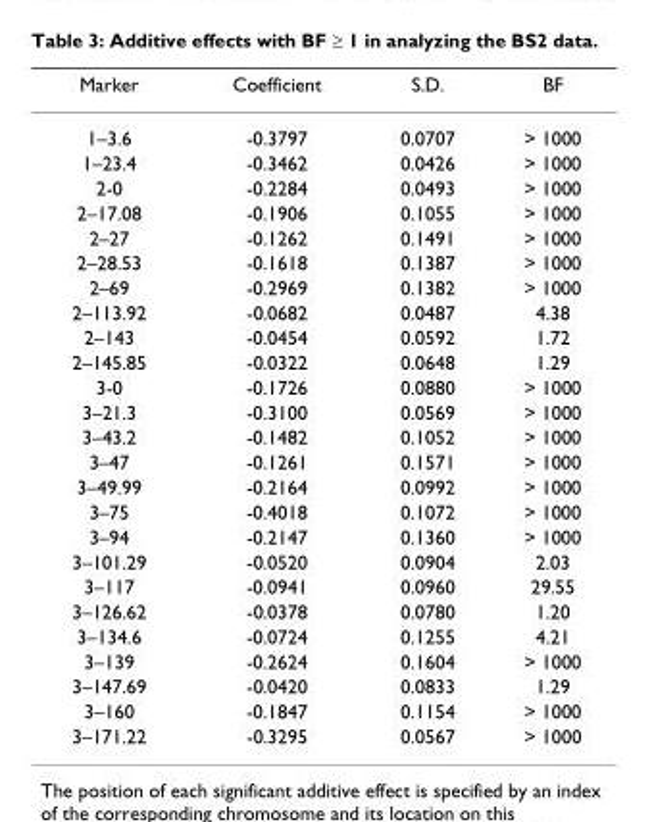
<table><thead><tr><td>Marker</td><td>Coefficient</td><td>S.D.</td><td>BF</td></tr></thead><tbody><tr><td>1–3.6</td><td>-0.3797</td><td>0.0707</td><td>&gt; 1000</td></tr><tr><td>1–23.4</td><td>-0.3462</td><td>0.0426</td><td>&gt; 1000</td></tr><tr><td>2-0</td><td>-0.2284</td><td>0.0493</td><td>&gt; 1000</td></tr><tr><td>2–17.08</td><td>-0.1906</td><td>0.1055</td><td>&gt; 1000</td></tr><tr><td>2–27</td><td>-0.1262</td><td>0.1491</td><td>&gt; 1000</td></tr><tr><td>2–28.53</td><td>-0.1618</td><td>0.1387</td><td>&gt; 1000</td></tr><tr><td>2–69</td><td>-0.2969</td><td>0.1382</td><td>&gt; 1000</td></tr><tr><td>2–113.92</td><td>-0.0682</td><td>0.0487</td><td>4.38</td></tr><tr><td>2–143</td><td>-0.0454</td><td>0.0592</td><td>1.72</td></tr><tr><td>2–145.85</td><td>-0.0322</td><td>0.0648</td><td>1.29</td></tr><tr><td>3-0</td><td>-0.1726</td><td>0.0880</td><td>&gt; 1000</td></tr><tr><td>3–21.3</td><td>-0.3100</td><td>0.0569</td><td>&gt; 1000</td></tr><tr><td>3–43.2</td><td>-0.1482</td><td>0.1052</td><td>&gt; 1000</td></tr><tr><td>3–47</td><td>-0.1261</td><td>0.1571</td><td>&gt; 1000</td></tr><tr><td>3–49.99</td><td>-0.2164</td><td>0.0992</td><td>&gt; 1000</td></tr><tr><td>3–75</td><td>-0.4018</td><td>0.1072</td><td>&gt; 1000</td></tr><tr><td>3–94</td><td>-0.2147</td><td>0.1360</td><td>&gt; 1000</td></tr><tr><td>3–101.29</td><td>-0.0520</td><td>0.0904</td><td>2.03</td></tr><tr><td>3–117</td><td>-0.0941</td><td>0.0960</td><td>29.55</td></tr><tr><td>3–126.62</td><td>-0.0378</td><td>0.0780</td><td>1.20</td></tr><tr><td>3–134.6</td><td>-0.0724</td><td>0.1255</td><td>4.21</td></tr><tr><td>3–139</td><td>-0.2624</td><td>0.1604</td><td>&gt; 1000</td></tr><tr><td>3–147.69</td><td>-0.0420</td><td>0.0833</td><td>1.29</td></tr><tr><td>3–160</td><td>-0.1847</td><td>0.1154</td><td>&gt; 1000</td></tr><tr><td>3–171.22</td><td>-0.3295</td><td>0.0567</td><td>&gt; 1000</td></tr></tbody></table>